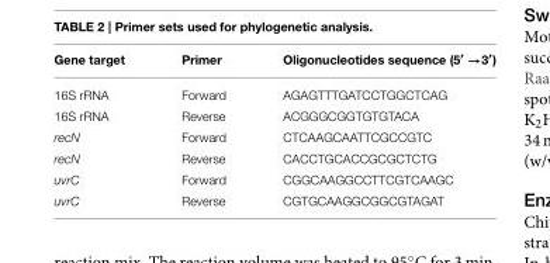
<table><thead><tr><td>Gene target</td><td>Primer</td><td>Oligonucleotides sequence (5<sup>′</sup> →3<sup>′</sup>)</td></tr></thead><tbody><tr><td>16S rRNA</td><td>Forward</td><td>AGAGTTTGATCCTGGCTCAG</td></tr><tr><td>16S rRNA</td><td>Reverse</td><td>ACGGGCGGTGTGTACA</td></tr><tr><td>recN</td><td>Forward</td><td>CTCAAGCAATTCGCCGTC</td></tr><tr><td>recN</td><td>Reverse</td><td>CACCTGCACCGCGCTCTG</td></tr><tr><td>uvrC</td><td>Forward</td><td>CGGCAAGGCCTTCGTCAAGC</td></tr><tr><td>uvrC</td><td>Reverse</td><td>CGTGCAAGGCGGCGTAGAT</td></tr></tbody></table>